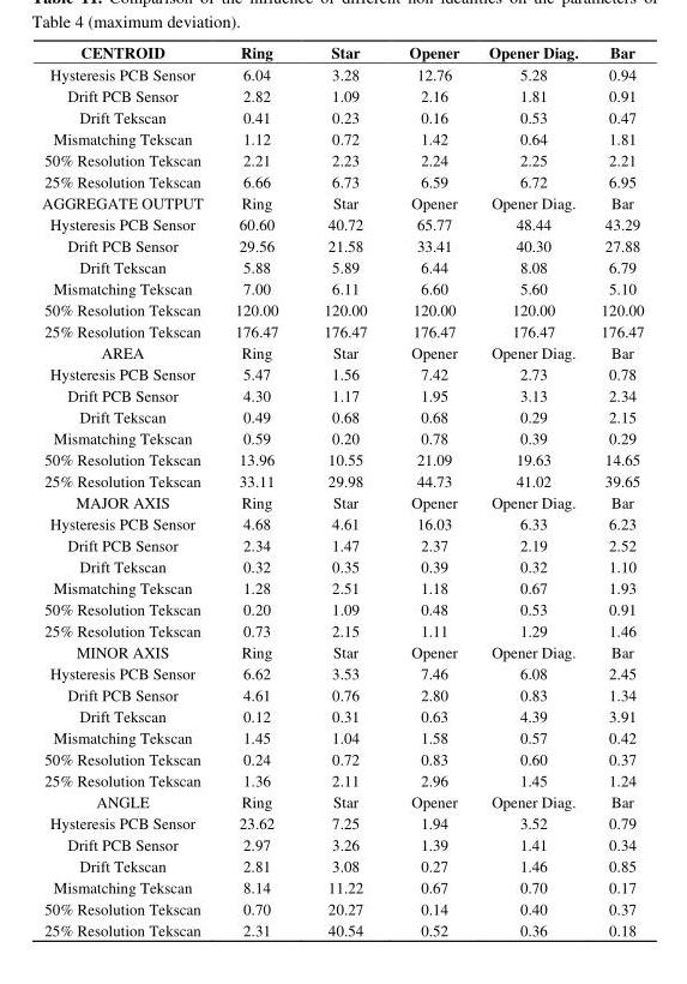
<table><thead><tr><td>CENTROID</td><td>Ring</td><td>Star</td><td>Opener</td><td>Opener Diag.</td><td>Bar</td></tr></thead><tbody><tr><td>Hysteresis PCB Sensor</td><td>6.04</td><td>3.28</td><td>12.76</td><td>5.28</td><td>0.94</td></tr><tr><td>Drift PCB Sensor</td><td>2.82</td><td>1.09</td><td>2.16</td><td>1.81</td><td>0.91</td></tr><tr><td>Drift Tekscan</td><td>0.41</td><td>0.23</td><td>0.16</td><td>0.53</td><td>0.47</td></tr><tr><td>Mismatching Tekscan</td><td>1.12</td><td>0.72</td><td>1.42</td><td>0.64</td><td>1.81</td></tr><tr><td>50% Resolution Tekscan</td><td>2.21</td><td>2.23</td><td>2.24</td><td>2.25</td><td>2.21</td></tr><tr><td>25% Resolution Tekscan</td><td>6.66</td><td>6.73</td><td>6.59</td><td>6.72</td><td>6.95</td></tr><tr><td>AGGREGATE OUTPUT</td><td>Ring</td><td>Star</td><td>Opener</td><td>Opener Diag.</td><td>Bar</td></tr><tr><td>Hysteresis PCB Sensor</td><td>60.60</td><td>40.72</td><td>65.77</td><td>48.44</td><td>43.29</td></tr><tr><td>Drift PCB Sensor</td><td>29.56</td><td>21.58</td><td>33.41</td><td>40.30</td><td>27.88</td></tr><tr><td>Drift Tekscan</td><td>5.88</td><td>5.89</td><td>6.44</td><td>8.08</td><td>6.79</td></tr><tr><td>Mismatching Tekscan</td><td>7.00</td><td>6.11</td><td>6.60</td><td>5.60</td><td>5.10</td></tr><tr><td>50% Resolution Tekscan</td><td>120.00</td><td>120.00</td><td>120.00</td><td>120.00</td><td>120.00</td></tr><tr><td>25% Resolution Tekscan</td><td>176.47</td><td>176.47</td><td>176.47</td><td>176.47</td><td>176.47</td></tr><tr><td>AREA</td><td>Ring</td><td>Star</td><td>Opener</td><td>Opener Diag.</td><td>Bar</td></tr><tr><td>Hysteresis PCB Sensor</td><td>5.47</td><td>1.56</td><td>7.42</td><td>2.73</td><td>0.78</td></tr><tr><td>Drift PCB Sensor</td><td>4.30</td><td>1.17</td><td>1.95</td><td>3.13</td><td>2.34</td></tr><tr><td>Drift Tekscan</td><td>0.49</td><td>0.68</td><td>0.68</td><td>0.29</td><td>2.15</td></tr><tr><td>Mismatching Tekscan</td><td>0.59</td><td>0.20</td><td>0.78</td><td>0.39</td><td>0.29</td></tr><tr><td>50% Resolution Tekscan</td><td>13.96</td><td>10.55</td><td>21.09</td><td>19.63</td><td>14.65</td></tr><tr><td>25% Resolution Tekscan</td><td>33.11</td><td>29.98</td><td>44.73</td><td>41.02</td><td>39.65</td></tr><tr><td>MAJOR AXIS</td><td>Ring</td><td>Star</td><td>Opener</td><td>Opener Diag.</td><td>Bar</td></tr><tr><td>Hysteresis PCB Sensor</td><td>4.68</td><td>4.61</td><td>16.03</td><td>6.33</td><td>6.23</td></tr><tr><td>Drift PCB Sensor</td><td>2.34</td><td>1.47</td><td>2.37</td><td>2.19</td><td>2.52</td></tr><tr><td>Drift Tekscan</td><td>0.32</td><td>0.35</td><td>0.39</td><td>0.32</td><td>1.10</td></tr><tr><td>Mismatching Tekscan</td><td>1.28</td><td>2.51</td><td>1.18</td><td>0.67</td><td>1.93</td></tr><tr><td>50% Resolution Tekscan</td><td>0.20</td><td>1.09</td><td>0.48</td><td>0.53</td><td>0.91</td></tr><tr><td>25% Resolution Tekscan</td><td>0.73</td><td>2.15</td><td>1.11</td><td>1.29</td><td>1.46</td></tr><tr><td>MINOR AXIS</td><td>Ring</td><td>Star</td><td>Opener</td><td>Opener Diag.</td><td>Bar</td></tr><tr><td>Hysteresis PCB Sensor</td><td>6.62</td><td>3.53</td><td>7.46</td><td>6.08</td><td>2.45</td></tr><tr><td>Drift PCB Sensor</td><td>4.61</td><td>0.76</td><td>2.80</td><td>0.83</td><td>1.34</td></tr><tr><td>Drift Tekscan</td><td>0.12</td><td>0.31</td><td>0.63</td><td>4.39</td><td>3.91</td></tr><tr><td>Mismatching Tekscan</td><td>1.45</td><td>1.04</td><td>1.58</td><td>0.57</td><td>0.42</td></tr><tr><td>50% Resolution Tekscan</td><td>0.24</td><td>0.72</td><td>0.83</td><td>0.60</td><td>0.37</td></tr><tr><td>25% Resolution Tekscan</td><td>1.36</td><td>2.11</td><td>2.96</td><td>1.45</td><td>1.24</td></tr><tr><td>ANGLE</td><td>Ring</td><td>Star</td><td>Opener</td><td>Opener Diag.</td><td>Bar</td></tr><tr><td>Hysteresis PCB Sensor</td><td>23.62</td><td>7.25</td><td>1.94</td><td>3.52</td><td>0.79</td></tr><tr><td>Drift PCB Sensor</td><td>2.97</td><td>3.26</td><td>1.39</td><td>1.41</td><td>0.34</td></tr><tr><td>Drift Tekscan</td><td>2.81</td><td>3.08</td><td>0.27</td><td>1.46</td><td>0.85</td></tr><tr><td>Mismatching Tekscan</td><td>8.14</td><td>11.22</td><td>0.67</td><td>0.70</td><td>0.17</td></tr><tr><td>50% Resolution Tekscan</td><td>0.70</td><td>20.27</td><td>0.14</td><td>0.40</td><td>0.37</td></tr><tr><td>25% Resolution Tekscan</td><td>2.31</td><td>40.54</td><td>0.52</td><td>0.36</td><td>0.18</td></tr></tbody></table>